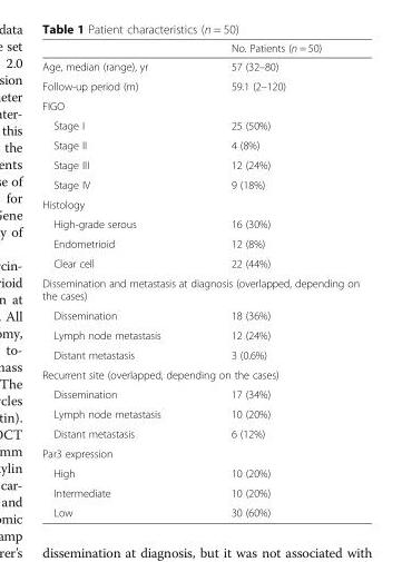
<table><thead><tr><td></td><td>No. Patients (n = 50)</td></tr></thead><tbody><tr><td>Age, median (range), yr</td><td>57 (32–80)</td></tr><tr><td>Follow-up period (m)</td><td>59.1 (2–120)</td></tr><tr><td colspan="2">FIGO</td></tr><tr><td>Stage I</td><td>25 (50%)</td></tr><tr><td>Stage II</td><td>4 (8%)</td></tr><tr><td>Stage III</td><td>12 (24%)</td></tr><tr><td>Stage IV</td><td>9 (18%)</td></tr><tr><td colspan="2">Histology</td></tr><tr><td>High-grade serous</td><td>16 (30%)</td></tr><tr><td>Endometrioid</td><td>12 (8%)</td></tr><tr><td>Clear cell</td><td>22 (44%)</td></tr><tr><td colspan="2">Dissemination and metastasis at diagnosis (overlapped, depending on the cases)</td></tr><tr><td>Dissemination</td><td>18 (36%)</td></tr><tr><td>Lymph node metastasis</td><td>12 (24%)</td></tr><tr><td>Distant metastasis</td><td>3 (0.6%)</td></tr><tr><td colspan="2">Recurrent site (overlapped, depending on the cases)</td></tr><tr><td>Dissemination</td><td>17 (34%)</td></tr><tr><td>Lymph node metastasis</td><td>10 (20%)</td></tr><tr><td>Distant metastasis</td><td>6 (12%)</td></tr><tr><td colspan="2">Par3 expression</td></tr><tr><td>High</td><td>10 (20%)</td></tr><tr><td>Intermediate</td><td>10 (20%)</td></tr><tr><td>Low</td><td>30 (60%)</td></tr></tbody></table>